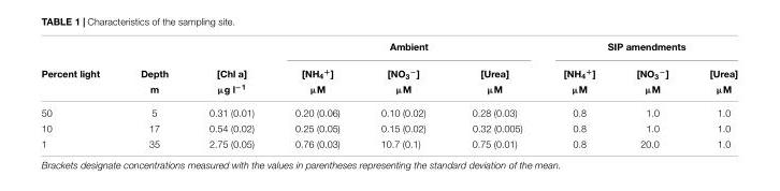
<table><thead><tr><td rowspan="3">Percent light</td><td rowspan="3">Depth m</td><td rowspan="3">[Chl a] µg l<sup>−1</sup></td><td colspan="3">Ambient</td><td colspan="3">SIP amendments</td></tr><tr><td rowspan="2">[NH<sub>4</sub><sup>+</sup>] µM</td><td rowspan="2">[NO<sub>3</sub><sup>−</sup>] µM</td><td rowspan="2">[Urea] µM</td><td rowspan="2">[NH<sub>4</sub><sup>+</sup>] µM</td><td rowspan="2">[NO<sub>3</sub><sup>−</sup>] µM</td><td rowspan="2">[Urea] µM</td></tr><tr></tr></thead><tbody><tr><td>50</td><td>5</td><td>0.31 (0.01)</td><td>0.20 (0.06)</td><td>0.10 (0.02)</td><td>0.28 (0.03)</td><td>0.8</td><td>1.0</td><td>1.0</td></tr><tr><td>10</td><td>17</td><td>0.54 (0.02)</td><td>0.25 (0.05)</td><td>0.15 (0.02)</td><td>0.32 (0.005)</td><td>0.8</td><td>1.0</td><td>1.0</td></tr><tr><td>1</td><td>35</td><td>2.75 (0.05)</td><td>0.76 (0.03)</td><td>10.7 (0.1)</td><td>0.75 (0.01)</td><td>0.8</td><td>20.0</td><td>1.0</td></tr></tbody></table>